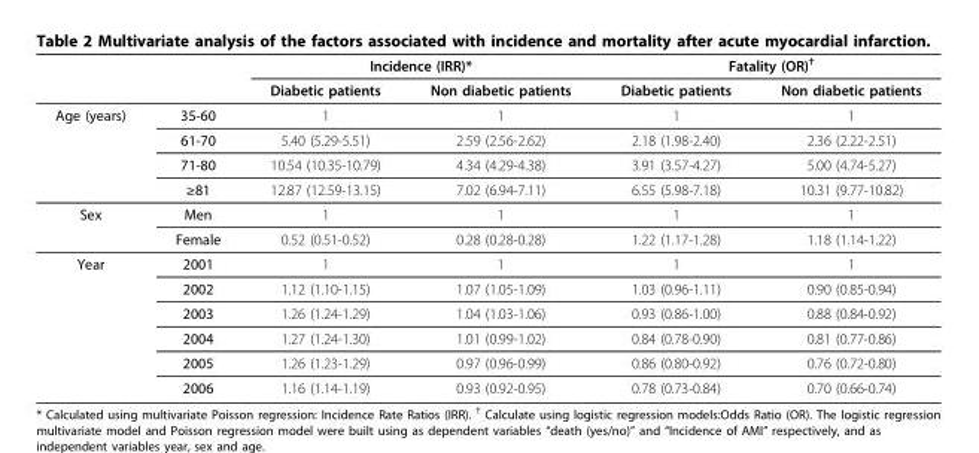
<table><thead><tr><td rowspan="2"></td><td rowspan="2"></td><td colspan="2">Incidence (IRR)*</td><td colspan="2">Fatality (OR)<sup>†</sup></td></tr><tr><td>Diabetic patients</td><td>Non diabetic patients</td><td>Diabetic patients</td><td>Non diabetic patients</td></tr></thead><tbody><tr><td rowspan="4">Age (years)</td><td>35-60</td><td>1</td><td>1</td><td>1</td><td>1</td></tr><tr><td>61-70</td><td>5.40 (5.29-5.51)</td><td>2.59 (2.56-2.62)</td><td>2.18 (1.98-2.40)</td><td>2.36 (2.22-2.51)</td></tr><tr><td>71-80</td><td>10.54 (10.35-10.79)</td><td>4.34 (4.29-4.38)</td><td>3.91 (3.57-4.27)</td><td>5.00 (4.74-5.27)</td></tr><tr><td>≥81</td><td>12.87 (12.59-13.15)</td><td>7.02 (6.94-7.11)</td><td>6.55 (5.98-7.18)</td><td>10.31 (9.77-10.82)</td></tr><tr><td rowspan="2">Sex</td><td>Men</td><td>1</td><td>1</td><td>1</td><td>1</td></tr><tr><td>Female</td><td>0.52 (0.51-0.52)</td><td>0.28 (0.28-0.28)</td><td>1.22 (1.17-1.28)</td><td>1.18 (1.14-1.22)</td></tr><tr><td rowspan="6">Year</td><td>2001</td><td>1</td><td>1</td><td>1</td><td>1</td></tr><tr><td>2002</td><td>1.12 (1.10-1.15)</td><td>1.07 (1.05-1.09)</td><td>1.03 (0.96-1.11)</td><td>0.90 (0.85-0.94)</td></tr><tr><td>2003</td><td>1.26 (1.24-1.29)</td><td>1.04 (1.03-1.06)</td><td>0.93 (0.86-1.00)</td><td>0.88 (0.84-0.92)</td></tr><tr><td>2004</td><td>1.27 (1.24-1.30)</td><td>1.01 (0.99-1.02)</td><td>0.84 (0.78-0.90)</td><td>0.81 (0.77-0.86)</td></tr><tr><td>2005</td><td>1.26 (1.23-1.29)</td><td>0.97 (0.96-0.99)</td><td>0.86 (0.80-0.92)</td><td>0.76 (0.72-0.80)</td></tr><tr><td>2006</td><td>1.16 (1.14-1.19)</td><td>0.93 (0.92-0.95)</td><td>0.78 (0.73-0.84)</td><td>0.70 (0.66-0.74)</td></tr></tbody></table>